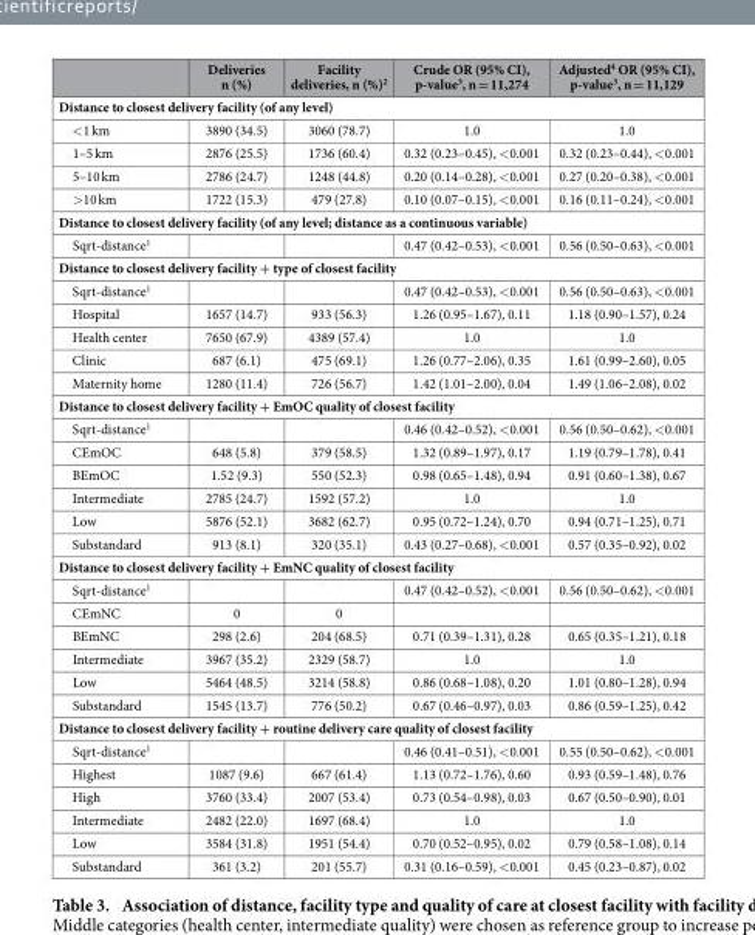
<table><thead><tr><td></td><td>Deliveries n (%)</td><td>Facility deliveries, n (%)<sup>2</sup></td><td>Crude OR (95% CI), p-value<sup>3</sup>, n = 11,274</td><td>Adjusted<sup>4</sup> OR (95% CI), p-value<sup>3</sup>, n = 11,129</td></tr></thead><tbody><tr><td colspan="5">Distance to closest delivery facility (of any level)</td></tr><tr><td>&lt; 1 km</td><td>3890 (34.5)</td><td>3060 (78.7)</td><td>1.0</td><td>1.0</td></tr><tr><td>1–5 km</td><td>2876 (25.5)</td><td>1736 (60.4)</td><td>0.32 (0.23–0.45), &lt; 0.001</td><td>0.32 (0.23–0.44), &lt; 0.001</td></tr><tr><td>5–10 km</td><td>2786 (24.7)</td><td>1248 (44.8)</td><td>0.20 (0.14–0.28), &lt; 0.001</td><td>0.27 (0.20–0.38), &lt; 0.001</td></tr><tr><td>&gt; 10 km</td><td>1722 (15.3)</td><td>479 (27.8)</td><td>0.10 (0.07–0.15), &lt; 0.001</td><td>0.16 (0.11–0.24), &lt; 0.001</td></tr><tr><td colspan="5">Distance to closest delivery facility (of any level; distance as a continuous variable)</td></tr><tr><td>Sqrt-distance<sup>1</sup></td><td></td><td></td><td>0.47 (0.42–0.53), &lt; 0.001</td><td>0.56 (0.50–0.63), &lt; 0.001</td></tr><tr><td colspan="5">Distance to closest delivery facility + type of closest facility</td></tr><tr><td>Sqrt-distance<sup>1</sup></td><td></td><td></td><td>0.47 (0.42–0.53), &lt; 0.001</td><td>0.56 (0.50–0.63), &lt; 0.001</td></tr><tr><td>Hospital</td><td>1657 (14.7)</td><td>933 (56.3)</td><td>1.26 (0.95–1.67), 0.11</td><td>1.18 (0.90–1.57), 0.24</td></tr><tr><td>Health center</td><td>7650 (67.9)</td><td>4389 (57.4)</td><td>1.0</td><td>1.0</td></tr><tr><td>Clinic</td><td>687 (6.1)</td><td>475 (69.1)</td><td>1.26 (0.77–2.06), 0.35</td><td>1.61 (0.99–2.60), 0.05</td></tr><tr><td>Maternity home</td><td>1280 (11.4)</td><td>726 (56.7)</td><td>1.42 (1.01–2.00), 0.04</td><td>1.49 (1.06–2.08), 0.02</td></tr><tr><td colspan="5">Distance to closest delivery facility + EmOC quality of closest facility</td></tr><tr><td>Sqrt-distance<sup>1</sup></td><td></td><td></td><td>0.46 (0.42–0.52), &lt; 0.001</td><td>0.56 (0.50–0.62), &lt; 0.001</td></tr><tr><td>CEmOC</td><td>648 (5.8)</td><td>379 (58.5)</td><td>1.32 (0.89–1.97), 0.17</td><td>1.19 (0.79–1.78), 0.41</td></tr><tr><td>BEmOC</td><td>1.52 (9.3)</td><td>550 (52.3)</td><td>0.98 (0.65–1.48), 0.94</td><td>0.91 (0.60–1.38), 0.67</td></tr><tr><td>Intermediate</td><td>2785 (24.7)</td><td>1592 (57.2)</td><td>1.0</td><td>1.0</td></tr><tr><td>Low</td><td>5876 (52.1)</td><td>3682 (62.7)</td><td>0.95 (0.72–1.24), 0.70</td><td>0.94 (0.71–1.25), 0.71</td></tr><tr><td>Substandard</td><td>913 (8.1)</td><td>320 (35.1)</td><td>0.43 (0.27–0.68), &lt; 0.001</td><td>0.57 (0.35–0.92), 0.02</td></tr><tr><td colspan="5">Distance to closest delivery facility + EmNC quality of closest facility</td></tr><tr><td>Sqrt-distance<sup>1</sup></td><td></td><td></td><td>0.47 (0.42–0.52), &lt; 0.001</td><td>0.56 (0.50–0.62), &lt; 0.001</td></tr><tr><td>CEmNC</td><td>0</td><td>0</td><td></td><td></td></tr><tr><td>BEmNC</td><td>298 (2.6)</td><td>204 (68.5)</td><td>0.71 (0.39–1.31), 0.28</td><td>0.65 (0.35–1.21), 0.18</td></tr><tr><td>Intermediate</td><td>3967 (35.2)</td><td>2329 (58.7)</td><td>1.0</td><td>1.0</td></tr><tr><td>Low</td><td>5464 (48.5)</td><td>3214 (58.8)</td><td>0.86 (0.68–1.08), 0.20</td><td>1.01 (0.80–1.28), 0.94</td></tr><tr><td>Substandard</td><td>1545 (13.7)</td><td>776 (50.2)</td><td>0.67 (0.46–0.97), 0.03</td><td>0.86 (0.59–1.25), 0.42</td></tr><tr><td colspan="5">Distance to closest delivery facility + routine delivery care quality of closest facility</td></tr><tr><td>Sqrt-distance<sup>1</sup></td><td></td><td></td><td>0.46 (0.41–0.51), &lt; 0.001</td><td>0.55 (0.50–0.62), &lt; 0.001</td></tr><tr><td>Highest</td><td>1087 (9.6)</td><td>667 (61.4)</td><td>1.13 (0.72–1.76), 0.60</td><td>0.93 (0.59–1.48), 0.76</td></tr><tr><td>High</td><td>3760 (33.4)</td><td>2007 (53.4)</td><td>0.73 (0.54–0.98), 0.03</td><td>0.67 (0.50–0.90), 0.01</td></tr><tr><td>Intermediate</td><td>2482 (22.0)</td><td>1697 (68.4)</td><td>1.0</td><td>1.0</td></tr><tr><td>Low</td><td>3584 (31.8)</td><td>1951 (54.4)</td><td>0.70 (0.52–0.95), 0.02</td><td>0.79 (0.58–1.08), 0.14</td></tr><tr><td>Substandard</td><td>361 (3.2)</td><td>201 (55.7)</td><td>0.31 (0.16–0.59), &lt; 0.001</td><td>0.45 (0.23–0.87), 0.02</td></tr></tbody></table>